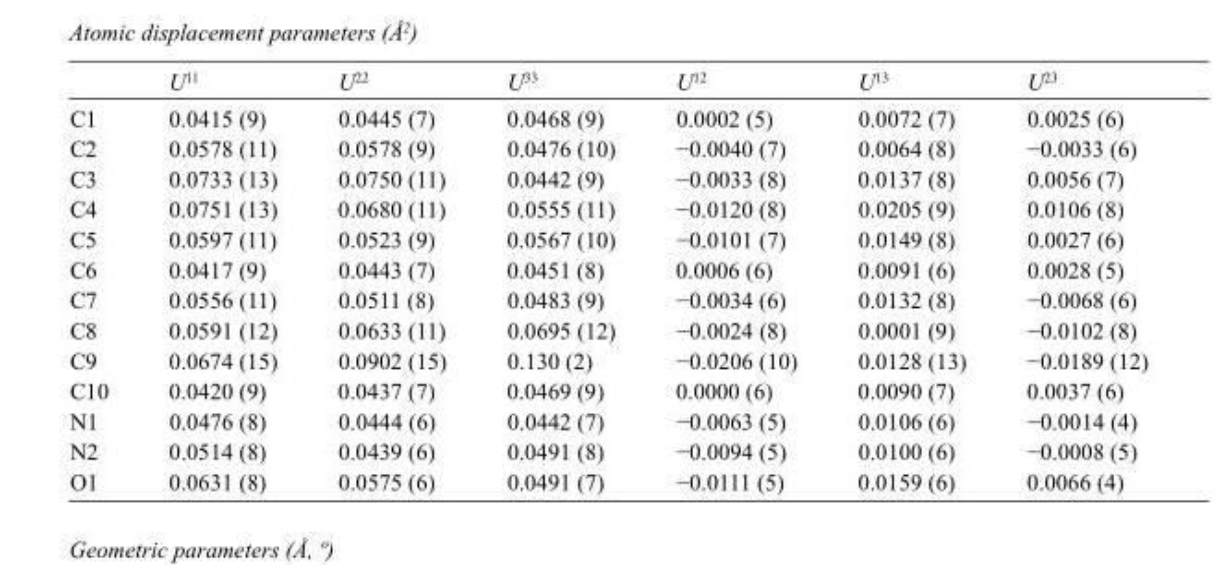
<table><thead><tr><td></td><td>U<sup>11</sup></td><td>U<sup>22</sup></td><td>U<sup>33</sup></td><td>U<sup>12</sup></td><td>U<sup>13</sup></td><td>U<sup>23</sup></td></tr></thead><tbody><tr><td>C1</td><td>0.0415 (9)</td><td>0.0445 (7)</td><td>0.0468 (9)</td><td>0.0002 (5)</td><td>0.0072 (7)</td><td>0.0025 (6)</td></tr><tr><td>C2</td><td>0.0578 (11)</td><td>0.0578 (9)</td><td>0.0476 (10)</td><td>−0.0040 (7)</td><td>0.0064 (8)</td><td>−0.0033 (6)</td></tr><tr><td>C3</td><td>0.0733 (13)</td><td>0.0750 (11)</td><td>0.0442 (9)</td><td>−0.0033 (8)</td><td>0.0137 (8)</td><td>0.0056 (7)</td></tr><tr><td>C4</td><td>0.0751 (13)</td><td>0.0680 (11)</td><td>0.0555 (11)</td><td>−0.0120 (8)</td><td>0.0205 (9)</td><td>0.0106 (8)</td></tr><tr><td>C5</td><td>0.0597 (11)</td><td>0.0523 (9)</td><td>0.0567 (10)</td><td>−0.0101 (7)</td><td>0.0149 (8)</td><td>0.0027 (6)</td></tr><tr><td>C6</td><td>0.0417 (9)</td><td>0.0443 (7)</td><td>0.0451 (8)</td><td>0.0006 (6)</td><td>0.0091 (6)</td><td>0.0028 (5)</td></tr><tr><td>C7</td><td>0.0556 (11)</td><td>0.0511 (8)</td><td>0.0483 (9)</td><td>−0.0034 (6)</td><td>0.0132 (8)</td><td>−0.0068 (6)</td></tr><tr><td>C8</td><td>0.0591 (12)</td><td>0.0633 (11)</td><td>0.0695 (12)</td><td>−0.0024 (8)</td><td>0.0001 (9)</td><td>−0.0102 (8)</td></tr><tr><td>C9</td><td>0.0674 (15)</td><td>0.0902 (15)</td><td>0.130 (2)</td><td>−0.0206 (10)</td><td>0.0128 (13)</td><td>−0.0189 (12)</td></tr><tr><td>C10</td><td>0.0420 (9)</td><td>0.0437 (7)</td><td>0.0469 (9)</td><td>0.0000 (6)</td><td>0.0090 (7)</td><td>0.0037 (6)</td></tr><tr><td>N1</td><td>0.0476 (8)</td><td>0.0444 (6)</td><td>0.0442 (7)</td><td>−0.0063 (5)</td><td>0.0106 (6)</td><td>−0.0014 (4)</td></tr><tr><td>N2</td><td>0.0514 (8)</td><td>0.0439 (6)</td><td>0.0491 (8)</td><td>−0.0094 (5)</td><td>0.0100 (6)</td><td>−0.0008 (5)</td></tr><tr><td>O1</td><td>0.0631 (8)</td><td>0.0575 (6)</td><td>0.0491 (7)</td><td>−0.0111 (5)</td><td>0.0159 (6)</td><td>0.0066 (4)</td></tr></tbody></table>